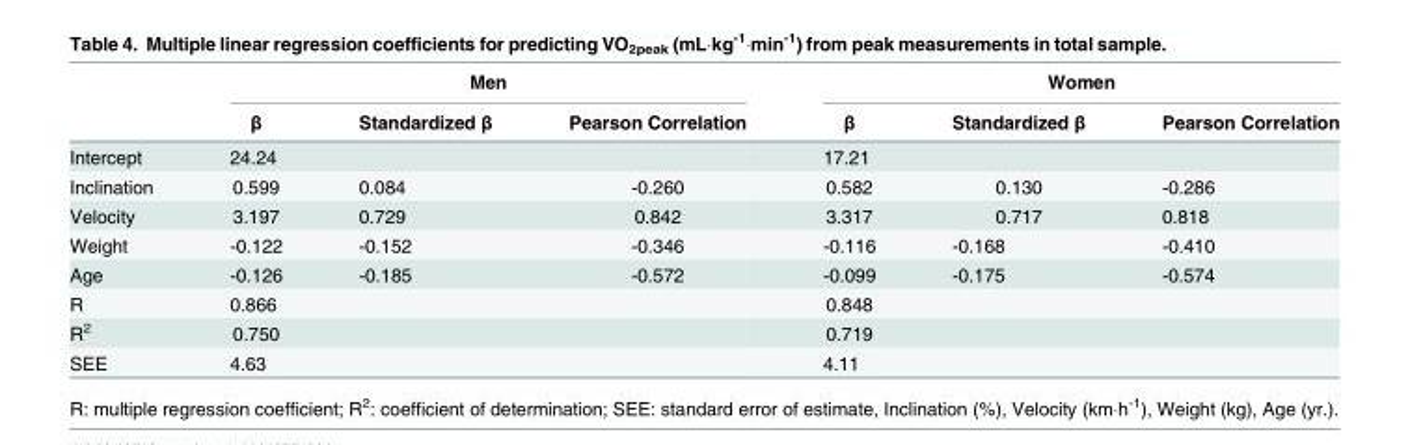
<table><thead><tr><td rowspan="2"></td><td colspan="3">Men</td><td colspan="3">Women</td></tr><tr><td>β</td><td>Standardized β</td><td>Pearson Correlation</td><td>β</td><td>Standardized β</td><td>Pearson Correlation</td></tr></thead><tbody><tr><td>Intercept</td><td>24.24</td><td></td><td></td><td>17.21</td><td></td><td></td></tr><tr><td>Inclination</td><td>0.599</td><td>0.084</td><td>-0.260</td><td>0.582</td><td>0.130</td><td>-0.286</td></tr><tr><td>Velocity</td><td>3.197</td><td>0.729</td><td>0.842</td><td>3.317</td><td>0.717</td><td>0.818</td></tr><tr><td>Weight</td><td>-0.122</td><td>-0.152</td><td>-0.346</td><td>-0.116</td><td>-0.168</td><td>-0.410</td></tr><tr><td>Age</td><td>-0.126</td><td>-0.185</td><td>-0.572</td><td>-0.099</td><td>-0.175</td><td>-0.574</td></tr><tr><td>R</td><td>0.866</td><td></td><td></td><td>0.848</td><td></td><td></td></tr><tr><td>R<sup>2</sup></td><td>0.750</td><td></td><td></td><td>0.719</td><td></td><td></td></tr><tr><td>SEE</td><td>4.63</td><td></td><td></td><td>4.11</td><td></td><td></td></tr></tbody></table>